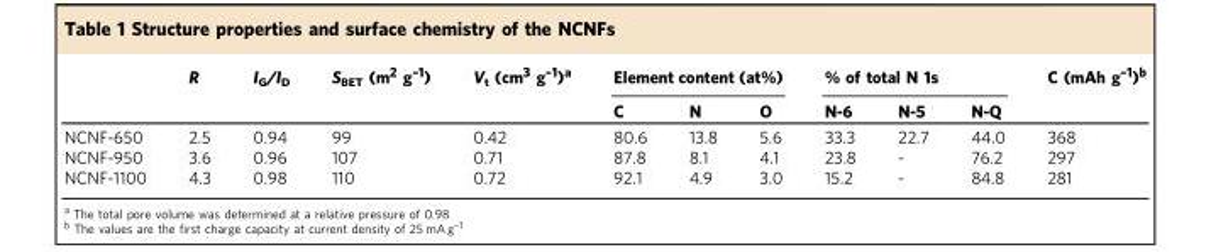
<table><thead><tr><td rowspan="2"></td><td rowspan="2">R</td><td rowspan="2">I<sub>G</sub>/I<sub>D</sub></td><td rowspan="2">S<sub>BET</sub> (m<sup>2</sup> g<sup>–1</sup>)</td><td rowspan="2">V<sub>t</sub> (cm<sup>3</sup> g<sup>–1</sup>)<sup>a</sup></td><td colspan="3">Element content (at%)</td><td colspan="3">% of total N 1s</td><td rowspan="2">C (mAh g<sup>–1</sup>)<sup>b</sup></td></tr><tr><td>C</td><td>N</td><td>O</td><td>N-6</td><td>N-5</td><td>N-Q</td></tr></thead><tbody><tr><td>NCNF-650</td><td>2.5</td><td>0.94</td><td>99</td><td>0.42</td><td>80.6</td><td>13.8</td><td>5.6</td><td>33.3</td><td>22.7</td><td>44.0</td><td>368</td></tr><tr><td>NCNF-950</td><td>3.6</td><td>0.96</td><td>107</td><td>0.71</td><td>87.8</td><td>8.1</td><td>4.1</td><td>23.8</td><td>-</td><td>76.2</td><td>297</td></tr><tr><td>NCNF-1100</td><td>4.3</td><td>0.98</td><td>110</td><td>0.72</td><td>92.1</td><td>4.9</td><td>3.0</td><td>15.2</td><td>-</td><td>84.8</td><td>281</td></tr></tbody></table>